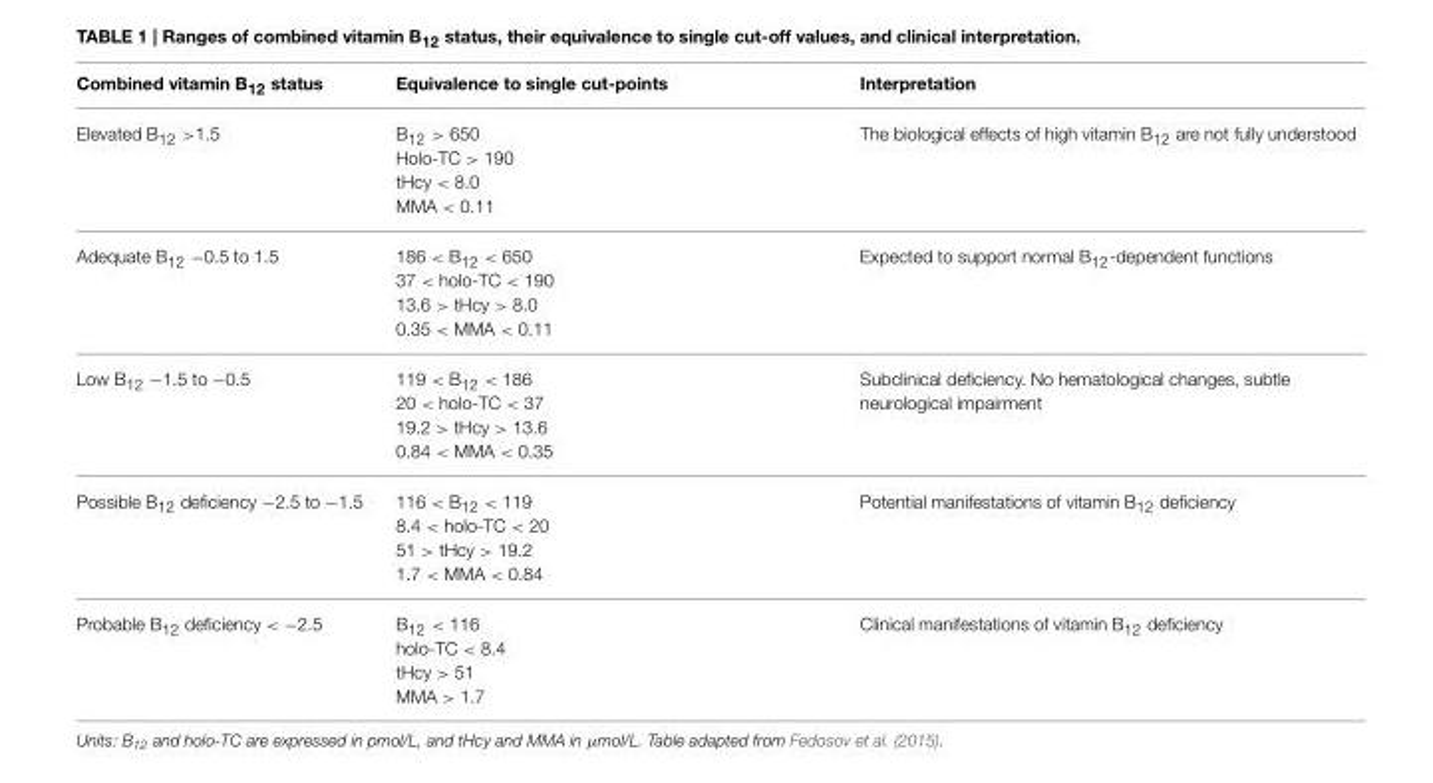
<table><thead><tr><td>Combined vitamin B<sub>12</sub> status</td><td>Equivalence to single cut-points</td><td>Interpretation</td></tr></thead><tbody><tr><td>Elevated B<sub>12</sub> &gt;1.5</td><td>B<sub>12</sub> &gt; 650 Holo-TC &gt; 190 tHcy &lt; 8.0 MMA &lt; 0.11</td><td>The biological effects of high vitamin B<sub>12</sub> are not fully understood</td></tr><tr><td>Adequate B<sub>12</sub> −0.5 to 1.5</td><td>186 &lt; B<sub>12</sub> &lt; 650 37 &lt; holo-TC &lt; 190 13.6 &gt; tHcy &gt; 8.0 0.35 &lt; MMA &lt; 0.11</td><td>Expected to support normal B<sub>12</sub>-dependent functions</td></tr><tr><td>Low B<sub>12</sub> −1.5 to −0.5</td><td>119 &lt; B<sub>12</sub> &lt; 186 20 &lt; holo-TC &lt; 37 19.2 &gt; tHcy &gt; 13.6 0.84 &lt; MMA &lt; 0.35</td><td>Subclinical deficiency. No hematological changes, subtle neurological impairment</td></tr><tr><td>Possible B<sub>12</sub> deficiency −2.5 to −1.5</td><td>116 &lt; B<sub>12</sub> &lt; 119 8.4 &lt; holo-TC &lt; 20 51 &gt; tHcy &gt; 19.2 1.7 &lt; MMA &lt; 0.84</td><td>Potential manifestations of vitamin B<sub>12</sub> deficiency</td></tr><tr><td>Probable B<sub>12</sub> deficiency &lt; −2.5</td><td>B<sub>12</sub> &lt; 116 holo-TC &lt; 8.4 tHcy &gt; 51 MMA &gt; 1.7</td><td>Clinical manifestations of vitamin B<sub>12</sub> deficiency</td></tr></tbody></table>